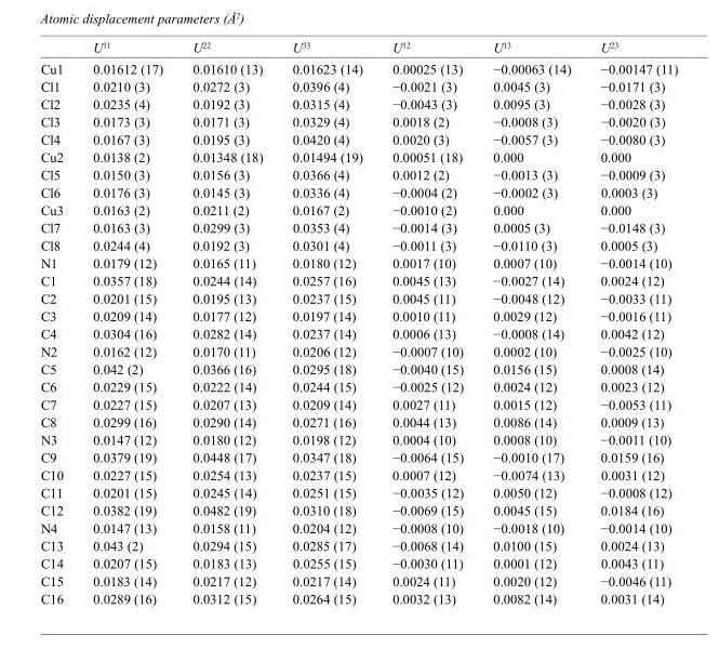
<table><thead><tr><td></td><td>U<sup>11</sup></td><td>U<sup>22</sup></td><td>U<sup>33</sup></td><td>U<sup>12</sup></td><td>U<sup>13</sup></td><td>U<sup>23</sup></td></tr></thead><tbody><tr><td>Cu1</td><td>0.01612 (17)</td><td>0.01610 (13)</td><td>0.01623 (14)</td><td>0.00025 (13)</td><td>−0.00063 (14)</td><td>−0.00147 (11)</td></tr><tr><td>Cl1</td><td>0.0210 (3)</td><td>0.0272 (3)</td><td>0.0396 (4)</td><td>−0.0021 (3)</td><td>0.0045 (3)</td><td>−0.0171 (3)</td></tr><tr><td>Cl2</td><td>0.0235 (4)</td><td>0.0192 (3)</td><td>0.0315 (4)</td><td>−0.0043 (3)</td><td>0.0095 (3)</td><td>−0.0028 (3)</td></tr><tr><td>Cl3</td><td>0.0173 (3)</td><td>0.0171 (3)</td><td>0.0329 (4)</td><td>0.0018 (2)</td><td>−0.0008 (3)</td><td>−0.0020 (3)</td></tr><tr><td>Cl4</td><td>0.0167 (3)</td><td>0.0195 (3)</td><td>0.0420 (4)</td><td>0.0020 (3)</td><td>−0.0057 (3)</td><td>−0.0080 (3)</td></tr><tr><td>Cu2</td><td>0.0138 (2)</td><td>0.01348 (18)</td><td>0.01494 (19)</td><td>0.00051 (18)</td><td>0.000</td><td>0.000</td></tr><tr><td>Cl5</td><td>0.0150 (3)</td><td>0.0156 (3)</td><td>0.0366 (4)</td><td>0.0012 (2)</td><td>−0.0013 (3)</td><td>−0.0009 (3)</td></tr><tr><td>Cl6</td><td>0.0176 (3)</td><td>0.0145 (3)</td><td>0.0336 (4)</td><td>−0.0004 (2)</td><td>−0.0002 (3)</td><td>0.0003 (3)</td></tr><tr><td>Cu3</td><td>0.0163 (2)</td><td>0.0211 (2)</td><td>0.0167 (2)</td><td>−0.0010 (2)</td><td>0.000</td><td>0.000</td></tr><tr><td>Cl7</td><td>0.0163 (3)</td><td>0.0299 (3)</td><td>0.0353 (4)</td><td>−0.0014 (3)</td><td>0.0005 (3)</td><td>−0.0148 (3)</td></tr><tr><td>Cl8</td><td>0.0244 (4)</td><td>0.0192 (3)</td><td>0.0301 (4)</td><td>−0.0011 (3)</td><td>−0.0110 (3)</td><td>0.0005 (3)</td></tr><tr><td>N1</td><td>0.0179 (12)</td><td>0.0165 (11)</td><td>0.0180 (12)</td><td>0.0017 (10)</td><td>0.0007 (10)</td><td>−0.0014 (10)</td></tr><tr><td>C1</td><td>0.0357 (18)</td><td>0.0244 (14)</td><td>0.0257 (16)</td><td>0.0045 (13)</td><td>−0.0027 (14)</td><td>0.0024 (12)</td></tr><tr><td>C2</td><td>0.0201 (15)</td><td>0.0195 (13)</td><td>0.0237 (15)</td><td>0.0045 (11)</td><td>−0.0048 (12)</td><td>−0.0033 (11)</td></tr><tr><td>C3</td><td>0.0209 (14)</td><td>0.0177 (12)</td><td>0.0197 (14)</td><td>0.0010 (11)</td><td>0.0029 (12)</td><td>−0.0016 (11)</td></tr><tr><td>C4</td><td>0.0304 (16)</td><td>0.0282 (14)</td><td>0.0237 (14)</td><td>0.0006 (13)</td><td>−0.0008 (14)</td><td>0.0042 (12)</td></tr><tr><td>N2</td><td>0.0162 (12)</td><td>0.0170 (11)</td><td>0.0206 (12)</td><td>−0.0007 (10)</td><td>0.0002 (10)</td><td>−0.0025 (10)</td></tr><tr><td>C5</td><td>0.042 (2)</td><td>0.0366 (16)</td><td>0.0295 (18)</td><td>−0.0040 (15)</td><td>0.0156 (15)</td><td>0.0008 (14)</td></tr><tr><td>C6</td><td>0.0229 (15)</td><td>0.0222 (14)</td><td>0.0244 (15)</td><td>−0.0025 (12)</td><td>0.0024 (12)</td><td>0.0023 (12)</td></tr><tr><td>C7</td><td>0.0227 (15)</td><td>0.0207 (13)</td><td>0.0209 (14)</td><td>0.0027 (11)</td><td>0.0015 (12)</td><td>−0.0053 (11)</td></tr><tr><td>C8</td><td>0.0299 (16)</td><td>0.0290 (14)</td><td>0.0271 (16)</td><td>0.0044 (13)</td><td>0.0086 (14)</td><td>0.0009 (13)</td></tr><tr><td>N3</td><td>0.0147 (12)</td><td>0.0180 (12)</td><td>0.0198 (12)</td><td>0.0004 (10)</td><td>0.0008 (10)</td><td>−0.0011 (10)</td></tr><tr><td>C9</td><td>0.0379 (19)</td><td>0.0448 (17)</td><td>0.0347 (18)</td><td>−0.0064 (15)</td><td>−0.0010 (17)</td><td>0.0159 (16)</td></tr><tr><td>C10</td><td>0.0227 (15)</td><td>0.0254 (13)</td><td>0.0237 (15)</td><td>0.0007 (12)</td><td>−0.0074 (13)</td><td>0.0031 (12)</td></tr><tr><td>C11</td><td>0.0201 (15)</td><td>0.0245 (14)</td><td>0.0251 (15)</td><td>−0.0035 (12)</td><td>0.0050 (12)</td><td>−0.0008 (12)</td></tr><tr><td>C12</td><td>0.0382 (19)</td><td>0.0482 (19)</td><td>0.0310 (18)</td><td>−0.0069 (15)</td><td>0.0045 (15)</td><td>0.0184 (16)</td></tr><tr><td>N4</td><td>0.0147 (13)</td><td>0.0158 (11)</td><td>0.0204 (12)</td><td>−0.0008 (10)</td><td>−0.0018 (10)</td><td>−0.0014 (10)</td></tr><tr><td>C13</td><td>0.043 (2)</td><td>0.0294 (15)</td><td>0.0285 (17)</td><td>−0.0068 (14)</td><td>0.0100 (15)</td><td>0.0024 (13)</td></tr><tr><td>C14</td><td>0.0207 (15)</td><td>0.0183 (13)</td><td>0.0255 (15)</td><td>−0.0030 (11)</td><td>0.0001 (12)</td><td>0.0043 (11)</td></tr><tr><td>C15</td><td>0.0183 (14)</td><td>0.0217 (12)</td><td>0.0217 (14)</td><td>0.0024 (11)</td><td>0.0020 (12)</td><td>−0.0046 (11)</td></tr><tr><td>C16</td><td>0.0289 (16)</td><td>0.0312 (15)</td><td>0.0264 (15)</td><td>0.0032 (13)</td><td>0.0082 (14)</td><td>0.0031 (14)</td></tr></tbody></table>